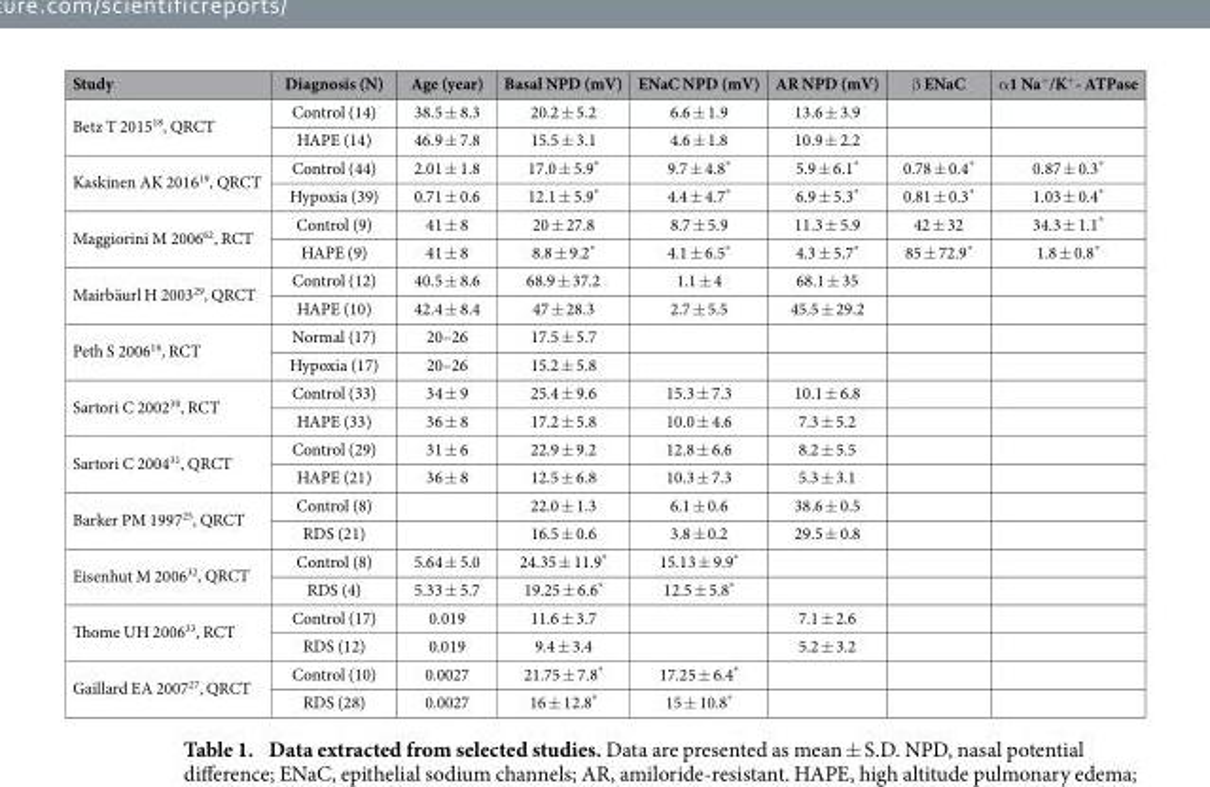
<table><thead><tr><td>Study</td><td>Diagnosis (N)</td><td>Age (year)</td><td>Basal NPD (mV)</td><td>ENaC NPD (mV)</td><td>AR NPD (mV)</td><td>β ENaC</td><td>α 1 Na<sup>+</sup>/K<sup>+</sup>- ATPase</td></tr></thead><tbody><tr><td rowspan="2">Betz T 2015<sup>18</sup>, QRCT</td><td>Control (14)</td><td>38.5 ± 8.3</td><td>20.2 ± 5.2</td><td>6.6 ± 1.9</td><td>13.6 ± 3.9</td><td></td><td></td></tr><tr><td>HAPE (14)</td><td>46.9 ± 7.8</td><td>15.5 ± 3.1</td><td>4.6 ± 1.8</td><td>10.9 ± 2.2</td><td></td><td></td></tr><tr><td rowspan="2">Kaskinen AK 2016<sup>19</sup>, QRCT</td><td>Control (44)</td><td>2.01 ± 1.8</td><td>17.0 ± 5.9*</td><td>9.7 ± 4.8*</td><td>5.9 ± 6.1*</td><td>0.78 ± 0.4*</td><td>0.87 ± 0.3*</td></tr><tr><td>Hypoxia (39)</td><td>0.71 ± 0.6</td><td>12.1 ± 5.9*</td><td>4.4 ± 4.7*</td><td>6.9 ± 5.3*</td><td>0.81 ± 0.3*</td><td>1.03 ± 0.4*</td></tr><tr><td rowspan="2">Maggiorini M 2006<sup>62</sup>, RCT</td><td>Control (9)</td><td>41 ± 8</td><td>20 ± 27.8</td><td>8.7 ± 5.9</td><td>11.3 ± 5.9</td><td>42 ± 32</td><td>34.3 ± 1.1*</td></tr><tr><td>HAPE (9)</td><td>41 ± 8</td><td>8.8 ± 9.2*</td><td>4.1 ± 6.5*</td><td>4.3 ± 5.7*</td><td>85 ± 72.9*</td><td>1.8 ± 0.8*</td></tr><tr><td rowspan="2">Mairbäurl H 2003<sup>29</sup>, QRCT</td><td>Control (12)</td><td>40.5 ± 8.6</td><td>68.9 ± 37.2</td><td>1.1 ± 4</td><td>68.1 ± 35</td><td></td><td></td></tr><tr><td>HAPE (10)</td><td>42.4 ± 8.4</td><td>47 ± 28.3</td><td>2.7 ± 5.5</td><td>45.5 ± 29.2</td><td></td><td></td></tr><tr><td rowspan="2">Peth S 2006<sup>16</sup>, RCT</td><td>Normal (17)</td><td>20–26</td><td>17.5 ± 5.7</td><td></td><td></td><td></td><td></td></tr><tr><td>Hypoxia (17)</td><td>20–26</td><td>15.2 ± 5.8</td><td></td><td></td><td></td><td></td></tr><tr><td rowspan="2">Sartori C 2002<sup>30</sup>, RCT</td><td>Control (33)</td><td>34 ± 9</td><td>25.4 ± 9.6</td><td>15.3 ± 7.3</td><td>10.1 ± 6.8</td><td></td><td></td></tr><tr><td>HAPE (33)</td><td>36 ± 8</td><td>17.2 ± 5.8</td><td>10.0 ± 4.6</td><td>7.3 ± 5.2</td><td></td><td></td></tr><tr><td rowspan="2">Sartori C 2004<sup>31</sup>, QRCT</td><td>Control (29)</td><td>31 ± 6</td><td>22.9 ± 9.2</td><td>12.8 ± 6.6</td><td>8.2 ± 5.5</td><td></td><td></td></tr><tr><td>HAPE (21)</td><td>36 ± 8</td><td>12.5 ± 6.8</td><td>10.3 ± 7.3</td><td>5.3 ± 3.1</td><td></td><td></td></tr><tr><td rowspan="2">Barker PM 1997<sup>25</sup>, QRCT</td><td>Control (8)</td><td></td><td>22.0 ± 1.3</td><td>6.1 ± 0.6</td><td>38.6 ± 0.5</td><td></td><td></td></tr><tr><td>RDS (21)</td><td></td><td>16.5 ± 0.6</td><td>3.8 ± 0.2</td><td>29.5 ± 0.8</td><td></td><td></td></tr><tr><td rowspan="2">Eisenhut M 2006<sup>32</sup>, QRCT</td><td>Control (8)</td><td>5.64 ± 5.0</td><td>24.35 ± 11.9*</td><td>15.13 ± 9.9*</td><td></td><td></td><td></td></tr><tr><td>RDS (4)</td><td>5.33 ± 5.7</td><td>19.25 ± 6.6*</td><td>12.5 ± 5.8*</td><td></td><td></td><td></td></tr><tr><td rowspan="2">Thome UH 2006<sup>33</sup>, RCT</td><td>Control (17)</td><td>0.019</td><td>11.6 ± 3.7</td><td></td><td>7.1 ± 2.6</td><td></td><td></td></tr><tr><td>RDS (12)</td><td>0.019</td><td>9.4 ± 3.4</td><td></td><td>5.2 ± 3.2</td><td></td><td></td></tr><tr><td rowspan="2">Gaillard EA 2007<sup>27</sup>, QRCT</td><td>Control (10)</td><td>0.0027</td><td>21.75 ± 7.8*</td><td>17.25 ± 6.4*</td><td></td><td></td><td></td></tr><tr><td>RDS (28)</td><td>0.0027</td><td>16 ± 12.8*</td><td>15 ± 10.8*</td><td></td><td></td><td></td></tr></tbody></table>